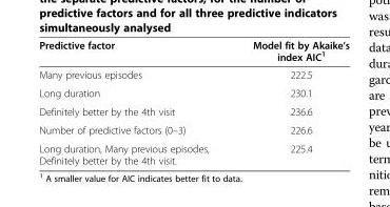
<table><thead><tr><td>Predictive factor</td><td>Model fit by Akaike’s index AIC<sup>1</sup></td></tr></thead><tbody><tr><td>Many previous episodes</td><td>222.5</td></tr><tr><td>Long duration</td><td>230.1</td></tr><tr><td>Definitely better by the 4th visit</td><td>236.6</td></tr><tr><td>Number of predictive factors (0–3)</td><td>226.6</td></tr><tr><td>Long duration, Many previous episodes, Definitely better by the 4th visit.</td><td>225.4</td></tr></tbody></table>